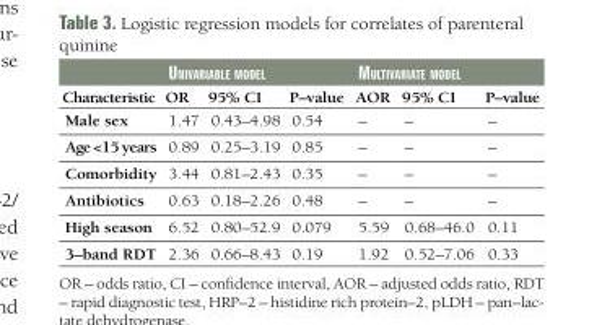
<table><thead><tr><td rowspan="2">Characteristic</td><td colspan="3">univariabLe moDeL</td><td colspan="3">muLtivariate moDeL</td></tr><tr><td>OR</td><td>95% CI</td><td>P–value</td><td>AOR</td><td>95% CI</td><td>P–value</td></tr></thead><tbody><tr><td>Male sex</td><td>1.47</td><td>0.43–4.98</td><td>0.54</td><td>–</td><td>–</td><td>–</td></tr><tr><td>Age &lt;15 years</td><td>0.89</td><td>0.25–3.19</td><td>0.85</td><td>–</td><td>–</td><td>–</td></tr><tr><td>Comorbidity</td><td>3.44</td><td>0.81–2.43</td><td>0.35</td><td>–</td><td>–</td><td>–</td></tr><tr><td>Antibiotics</td><td>0.63</td><td>0.18–2.26</td><td>0.48</td><td>–</td><td>–</td><td>–</td></tr><tr><td>High season</td><td>6.52</td><td>0.80–52.9</td><td>0.079</td><td>5.59</td><td>0.68–46.0</td><td>0.11</td></tr><tr><td>3–band RDT</td><td>2.36</td><td>0.66–8.43</td><td>0.19</td><td>1.92</td><td>0.52–7.06</td><td>0.33</td></tr></tbody></table>